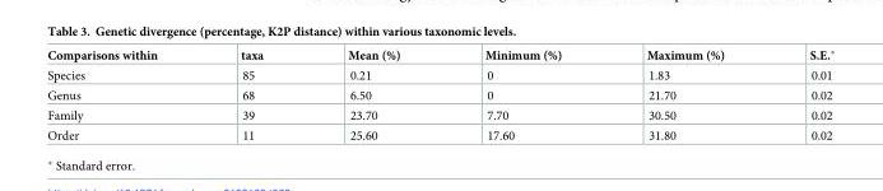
<table><thead><tr><td>Comparisons within</td><td>taxa</td><td>Mean (%)</td><td>Minimum (%)</td><td>Maximum (%)</td><td>S.E.*</td></tr></thead><tbody><tr><td>Species</td><td>85</td><td>0.21</td><td>0</td><td>1.83</td><td>0.01</td></tr><tr><td>Genus</td><td>68</td><td>6.50</td><td>0</td><td>21.70</td><td>0.02</td></tr><tr><td>Family</td><td>39</td><td>23.70</td><td>7.70</td><td>30.50</td><td>0.02</td></tr><tr><td>Order</td><td>11</td><td>25.60</td><td>17.60</td><td>31.80</td><td>0.02</td></tr></tbody></table>